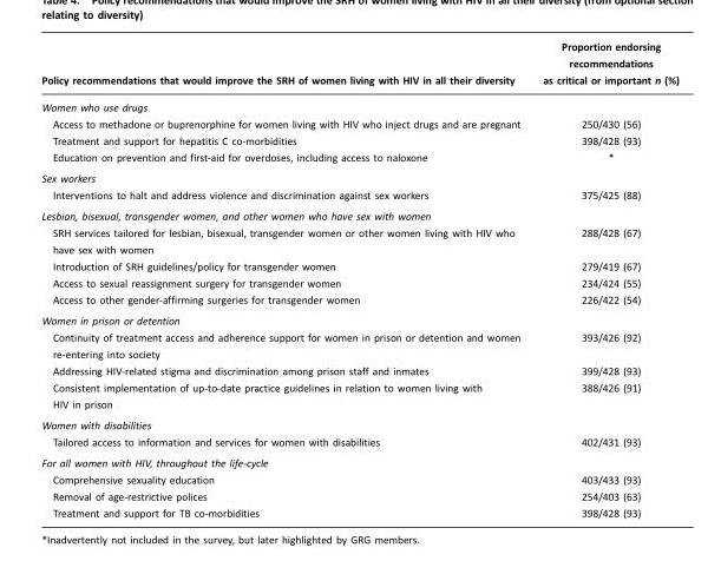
<table><thead><tr><td>Policy recommendations that would improve the SRH of women living with HIV in all their diversity</td><td>Proportion endorsing recommendations as critical or important n (%)</td></tr></thead><tbody><tr><td colspan="2">Women who use drugs</td></tr><tr><td>Access to methadone or buprenorphine for women living with HIV who inject drugs and are pregnant</td><td>250/430 (56)</td></tr><tr><td>Treatment and support for hepatitis C co-morbidities</td><td>398/428 (93)</td></tr><tr><td>Education on prevention and first-aid for overdoses, including access to naloxone</td><td>*</td></tr><tr><td colspan="2">Sex workers</td></tr><tr><td>Interventions to halt and address violence and discrimination against sex workers</td><td>375/425 (88)</td></tr><tr><td colspan="2">Lesbian, bisexual, transgender women, and other women who have sex with women</td></tr><tr><td>SRH services tailored for lesbian, bisexual, transgender women or other women living with HIV who have sex with women</td><td>288/428 (67)</td></tr><tr><td>Introduction of SRH guidelines/policy for transgender women</td><td>279/419 (67)</td></tr><tr><td>Access to sexual reassignment surgery for transgender women</td><td>234/424 (55)</td></tr><tr><td>Access to other gender-affirming surgeries for transgender women</td><td>226/422 (54)</td></tr><tr><td colspan="2">Women in prison or detention</td></tr><tr><td>Continuity of treatment access and adherence support for women in prison or detention and women re-entering into society</td><td>393/426 (92)</td></tr><tr><td>Addressing HIV-related stigma and discrimination among prison staff and inmates</td><td>399/428 (93)</td></tr><tr><td>Consistent implementation of up-to-date practice guidelines in relation to women living with HIV in prison</td><td>388/426 (91)</td></tr><tr><td colspan="2">Women with disabilities</td></tr><tr><td>Tailored access to information and services for women with disabilities</td><td>402/431 (93)</td></tr><tr><td colspan="2">For all women with HIV, throughout the life-cycle</td></tr><tr><td>Comprehensive sexuality education</td><td>403/433 (93)</td></tr><tr><td>Removal of age-restrictive polices</td><td>254/403 (63)</td></tr><tr><td>Treatment and support for TB co-morbidities</td><td>398/428 (93)</td></tr></tbody></table>